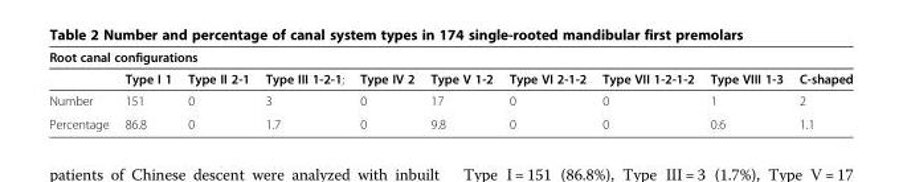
<table><thead><tr><td colspan="10">Root canal configurations</td></tr><tr><td></td><td>Type I 1</td><td>Type II 2-1</td><td>Type III 1-2-1;</td><td>Type IV 2</td><td>Type V 1-2</td><td>Type VI 2-1-2</td><td>Type VII 1-2-1-2</td><td>Type VIII 1-3</td><td>C-shaped</td></tr></thead><tbody><tr><td>Number</td><td>151</td><td>0</td><td>3</td><td>0</td><td>17</td><td>0</td><td>0</td><td>1</td><td>2</td></tr><tr><td>Percentage</td><td>86.8</td><td>0</td><td>1.7</td><td>0</td><td>9.8</td><td>0</td><td>0</td><td>0.6</td><td>1.1</td></tr></tbody></table>